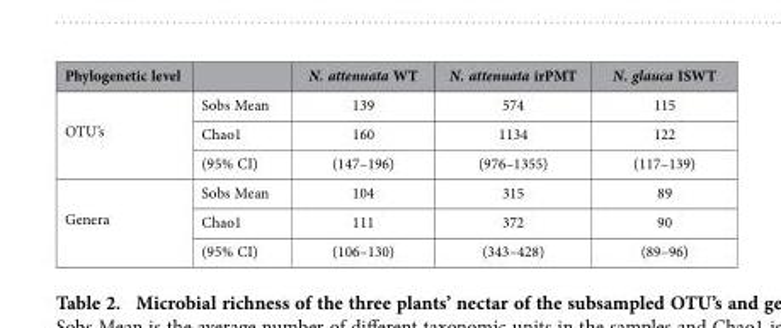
<table><thead><tr><td>Phylogenetic level</td><td></td><td>N. attenuata WT</td><td>N. attenuata irPMT</td><td>N. glauca ISWT</td></tr></thead><tbody><tr><td rowspan="3">OTU’s</td><td>Sobs Mean</td><td>139</td><td>574</td><td>115</td></tr><tr><td>Chao1</td><td>160</td><td>1134</td><td>122</td></tr><tr><td>(95% CI)</td><td>(147–196)</td><td>(976–1355)</td><td>(117–139)</td></tr><tr><td rowspan="3">Genera</td><td>Sobs Mean</td><td>104</td><td>315</td><td>89</td></tr><tr><td>Chao1</td><td>111</td><td>372</td><td>90</td></tr><tr><td>(95% CI)</td><td>(106–130)</td><td>(343–428)</td><td>(89–96)</td></tr></tbody></table>